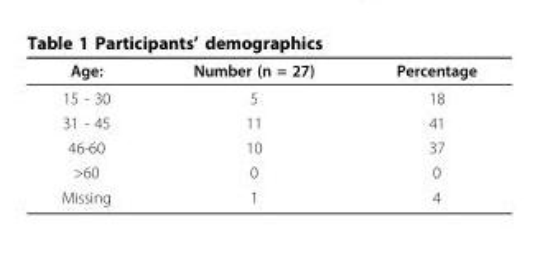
<table><thead><tr><td>Age:</td><td>Number (n = 27)</td><td>Percentage</td></tr></thead><tbody><tr><td>15 - 30</td><td>5</td><td>18</td></tr><tr><td>31 - 45</td><td>11</td><td>41</td></tr><tr><td>46-60</td><td>10</td><td>37</td></tr><tr><td>&gt;60</td><td>0</td><td>0</td></tr><tr><td>Missing</td><td>1</td><td>4</td></tr></tbody></table>